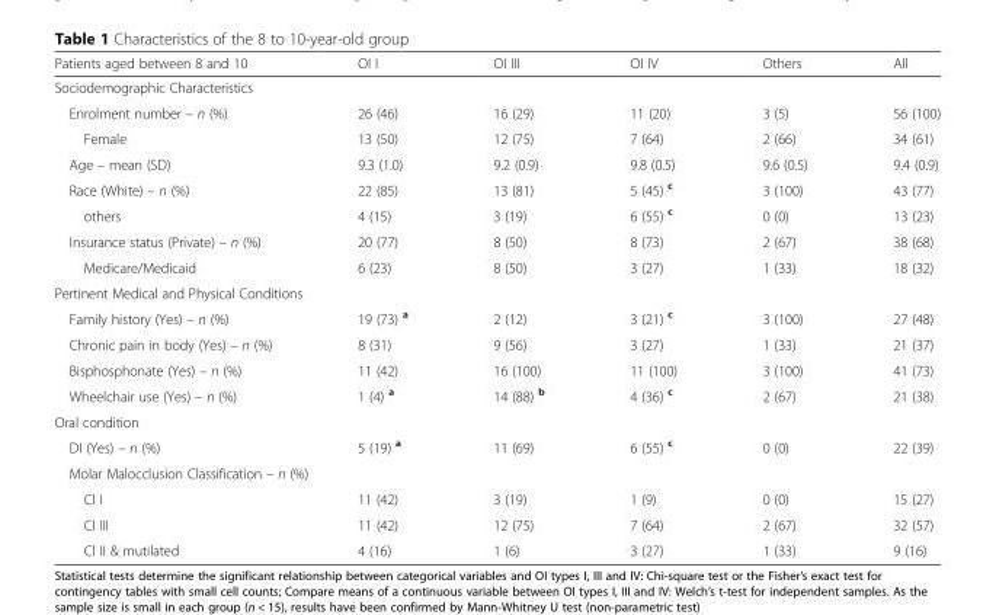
<table><thead><tr><td>Patients aged between 8 and 10</td><td>OI I</td><td>OI III</td><td>OI IV</td><td>Others</td><td>All</td></tr></thead><tbody><tr><td colspan="6">Sociodemographic Characteristics</td></tr><tr><td>Enrolment number – n (%)</td><td>26 (46)</td><td>16 (29)</td><td>11 (20)</td><td>3 (5)</td><td>56 (100)</td></tr><tr><td>Female</td><td>13 (50)</td><td>12 (75)</td><td>7 (64)</td><td>2 (66)</td><td>34 (61)</td></tr><tr><td>Age – mean (SD)</td><td>9.3 (1.0)</td><td>9.2 (0.9)</td><td>9.8 (0.5)</td><td>9.6 (0.5)</td><td>9.4 (0.9)</td></tr><tr><td>Race (White) – n (%)</td><td>22 (85)</td><td>13 (81)</td><td>5 (45) <sup>c</sup></td><td>3 (100)</td><td>43 (77)</td></tr><tr><td>others</td><td>4 (15)</td><td>3 (19)</td><td>6 (55) <sup>c</sup></td><td>0 (0)</td><td>13 (23)</td></tr><tr><td>Insurance status (Private) – n (%)</td><td>20 (77)</td><td>8 (50)</td><td>8 (73)</td><td>2 (67)</td><td>38 (68)</td></tr><tr><td>Medicare/Medicaid</td><td>6 (23)</td><td>8 (50)</td><td>3 (27)</td><td>1 (33)</td><td>18 (32)</td></tr><tr><td colspan="6">Pertinent Medical and Physical Conditions</td></tr><tr><td>Family history (Yes) – n (%)</td><td>19 (73) <sup>a</sup></td><td>2 (12)</td><td>3 (21) <sup>c</sup></td><td>3 (100)</td><td>27 (48)</td></tr><tr><td>Chronic pain in body (Yes) – n (%)</td><td>8 (31)</td><td>9 (56)</td><td>3 (27)</td><td>1 (33)</td><td>21 (37)</td></tr><tr><td>Bisphosphonate (Yes) – n (%)</td><td>11 (42)</td><td>16 (100)</td><td>11 (100)</td><td>3 (100)</td><td>41 (73)</td></tr><tr><td>Wheelchair use (Yes) – n (%)</td><td>1 (4) <sup>a</sup></td><td>14 (88) <sup>b</sup></td><td>4 (36) <sup>c</sup></td><td>2 (67)</td><td>21 (38)</td></tr><tr><td colspan="6">Oral condition</td></tr><tr><td>DI (Yes) – n (%)</td><td>5 (19) <sup>a</sup></td><td>11 (69)</td><td>6 (55) <sup>c</sup></td><td>0 (0)</td><td>22 (39)</td></tr><tr><td colspan="6">Molar Malocclusion Classification – n (%)</td></tr><tr><td>Cl I</td><td>11 (42)</td><td>3 (19)</td><td>1 (9)</td><td>0 (0)</td><td>15 (27)</td></tr><tr><td>Cl III</td><td>11 (42)</td><td>12 (75)</td><td>7 (64)</td><td>2 (67)</td><td>32 (57)</td></tr><tr><td>Cl II &amp; mutilated</td><td>4 (16)</td><td>1 (6)</td><td>3 (27)</td><td>1 (33)</td><td>9 (16)</td></tr></tbody></table>